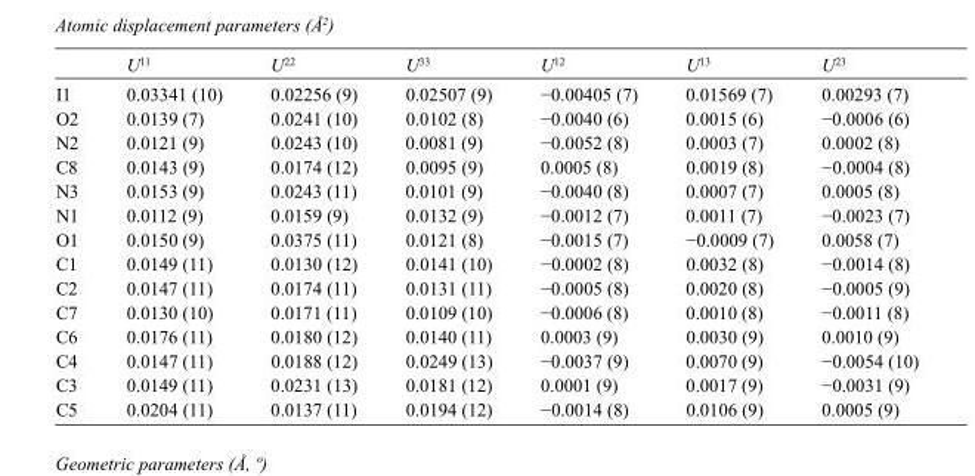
<table><thead><tr><td></td><td>U<sup>11</sup></td><td>U<sup>22</sup></td><td>U<sup>33</sup></td><td>U<sup>12</sup></td><td>U<sup>13</sup></td><td>U<sup>23</sup></td></tr></thead><tbody><tr><td>I1</td><td>0.03341 (10)</td><td>0.02256 (9)</td><td>0.02507 (9)</td><td>−0.00405 (7)</td><td>0.01569 (7)</td><td>0.00293 (7)</td></tr><tr><td>O2</td><td>0.0139 (7)</td><td>0.0241 (10)</td><td>0.0102 (8)</td><td>−0.0040 (6)</td><td>0.0015 (6)</td><td>−0.0006 (6)</td></tr><tr><td>N2</td><td>0.0121 (9)</td><td>0.0243 (10)</td><td>0.0081 (9)</td><td>−0.0052 (8)</td><td>0.0003 (7)</td><td>0.0002 (8)</td></tr><tr><td>C8</td><td>0.0143 (9)</td><td>0.0174 (12)</td><td>0.0095 (9)</td><td>0.0005 (8)</td><td>0.0019 (8)</td><td>−0.0004 (8)</td></tr><tr><td>N3</td><td>0.0153 (9)</td><td>0.0243 (11)</td><td>0.0101 (9)</td><td>−0.0040 (8)</td><td>0.0007 (7)</td><td>0.0005 (8)</td></tr><tr><td>N1</td><td>0.0112 (9)</td><td>0.0159 (9)</td><td>0.0132 (9)</td><td>−0.0012 (7)</td><td>0.0011 (7)</td><td>−0.0023 (7)</td></tr><tr><td>O1</td><td>0.0150 (9)</td><td>0.0375 (11)</td><td>0.0121 (8)</td><td>−0.0015 (7)</td><td>−0.0009 (7)</td><td>0.0058 (7)</td></tr><tr><td>C1</td><td>0.0149 (11)</td><td>0.0130 (12)</td><td>0.0141 (10)</td><td>−0.0002 (8)</td><td>0.0032 (8)</td><td>−0.0014 (8)</td></tr><tr><td>C2</td><td>0.0147 (11)</td><td>0.0174 (11)</td><td>0.0131 (11)</td><td>−0.0005 (8)</td><td>0.0020 (8)</td><td>−0.0005 (9)</td></tr><tr><td>C7</td><td>0.0130 (10)</td><td>0.0171 (11)</td><td>0.0109 (10)</td><td>−0.0006 (8)</td><td>0.0010 (8)</td><td>−0.0011 (8)</td></tr><tr><td>C6</td><td>0.0176 (11)</td><td>0.0180 (12)</td><td>0.0140 (11)</td><td>0.0003 (9)</td><td>0.0030 (9)</td><td>0.0010 (9)</td></tr><tr><td>C4</td><td>0.0147 (11)</td><td>0.0188 (12)</td><td>0.0249 (13)</td><td>−0.0037 (9)</td><td>0.0070 (9)</td><td>−0.0054 (10)</td></tr><tr><td>C3</td><td>0.0149 (11)</td><td>0.0231 (13)</td><td>0.0181 (12)</td><td>0.0001 (9)</td><td>0.0017 (9)</td><td>−0.0031 (9)</td></tr><tr><td>C5</td><td>0.0204 (11)</td><td>0.0137 (11)</td><td>0.0194 (12)</td><td>−0.0014 (8)</td><td>0.0106 (9)</td><td>0.0005 (9)</td></tr></tbody></table>